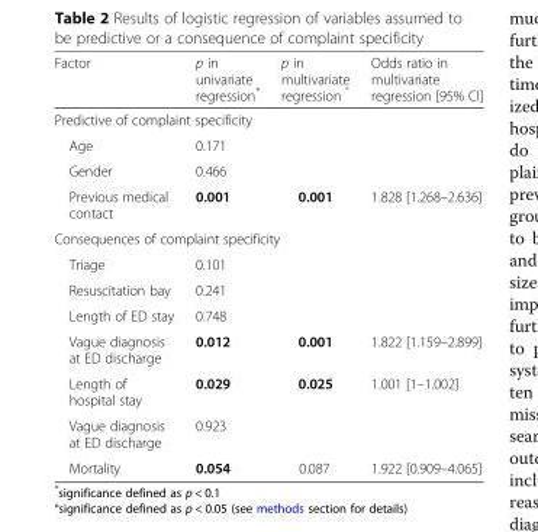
<table><thead><tr><td>Factor</td><td>p in univariate regression*</td><td>p in multivariate regression <sup>°</sup></td><td>Odds ratio in multivariate regression [95% CI]</td></tr></thead><tbody><tr><td colspan="4">Predictive of complaint specificity</td></tr><tr><td>Age</td><td>0.171</td><td rowspan="2" colspan="2"></td></tr><tr><td>Gender</td><td>0.466</td></tr><tr><td>Previous medical contact</td><td>0.001</td><td>0.001</td><td>1.828 [1.268–2.636]</td></tr><tr><td colspan="4">Consequences of complaint specificity</td></tr><tr><td>Triage</td><td>0.101</td><td rowspan="3" colspan="2"></td></tr><tr><td>Resuscitation bay</td><td>0.241</td></tr><tr><td>Length of ED stay</td><td>0.748</td></tr><tr><td>Vague diagnosis at ED discharge</td><td>0.012</td><td>0.001</td><td>1.822 [1.159–2.899]</td></tr><tr><td>Length of hospital stay</td><td>0.029</td><td>0.025</td><td>1.001 [1–1.002]</td></tr><tr><td>Vague diagnosis at ED discharge</td><td>0.923</td><td colspan="2"></td></tr><tr><td>Mortality</td><td>0.054</td><td>0.087</td><td>1.922 [0.909–4.065]</td></tr></tbody></table>